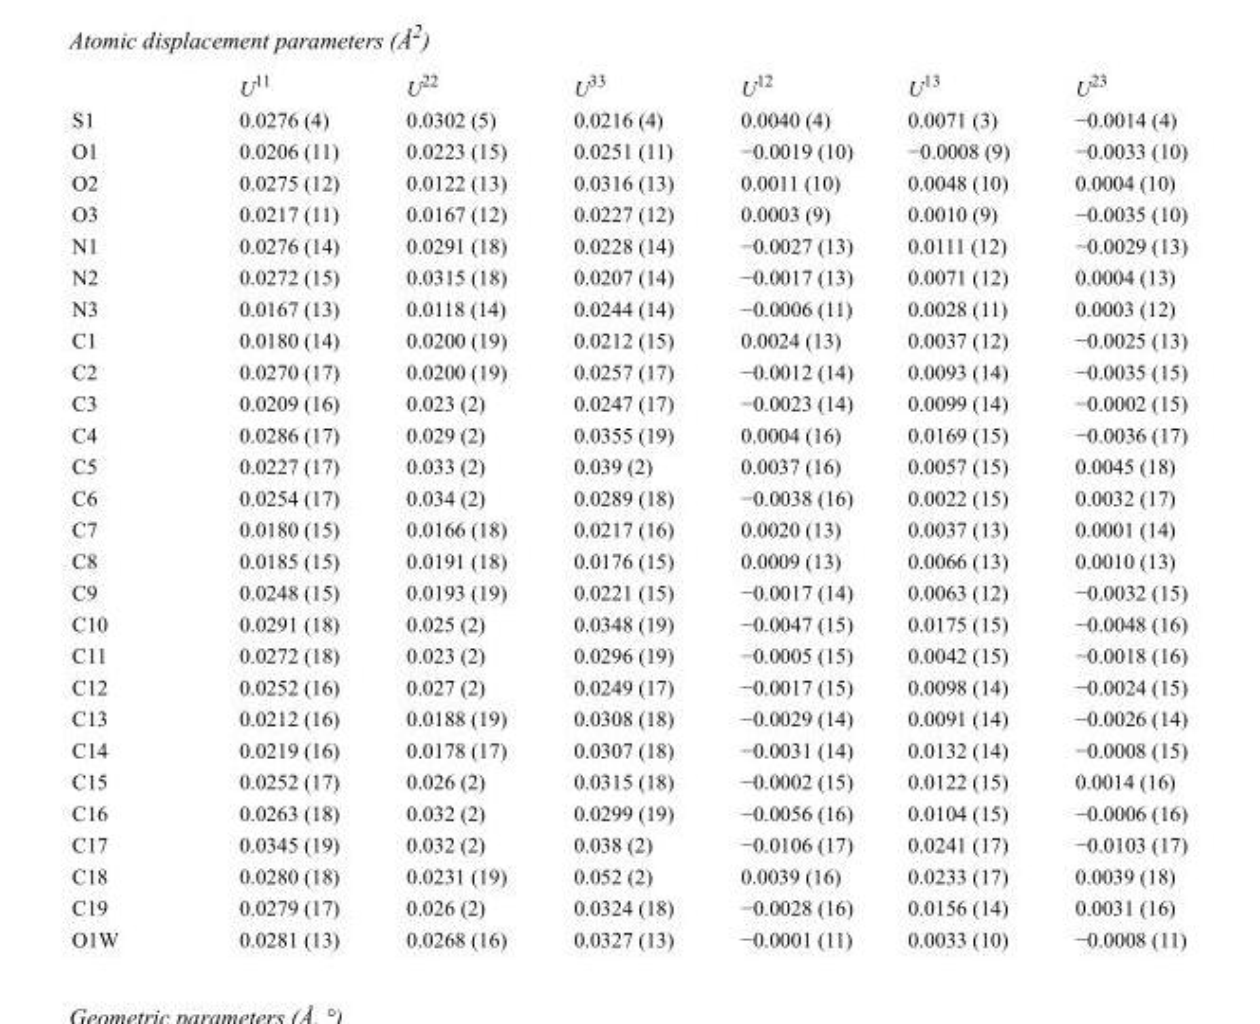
<table><thead><tr><td></td><td>U<sup>11</sup></td><td>U<sup>22</sup></td><td>U<sup>33</sup></td><td>U<sup>12</sup></td><td>U<sup>13</sup></td><td>U<sup>23</sup></td></tr></thead><tbody><tr><td>S1</td><td>0.0276 (4)</td><td>0.0302 (5)</td><td>0.0216 (4)</td><td>0.0040 (4)</td><td>0.0071 (3)</td><td>−0.0014 (4)</td></tr><tr><td>O1</td><td>0.0206 (11)</td><td>0.0223 (15)</td><td>0.0251 (11)</td><td>−0.0019 (10)</td><td>−0.0008 (9)</td><td>−0.0033 (10)</td></tr><tr><td>O2</td><td>0.0275 (12)</td><td>0.0122 (13)</td><td>0.0316 (13)</td><td>0.0011 (10)</td><td>0.0048 (10)</td><td>0.0004 (10)</td></tr><tr><td>O3</td><td>0.0217 (11)</td><td>0.0167 (12)</td><td>0.0227 (12)</td><td>0.0003 (9)</td><td>0.0010 (9)</td><td>−0.0035 (10)</td></tr><tr><td>N1</td><td>0.0276 (14)</td><td>0.0291 (18)</td><td>0.0228 (14)</td><td>−0.0027 (13)</td><td>0.0111 (12)</td><td>−0.0029 (13)</td></tr><tr><td>N2</td><td>0.0272 (15)</td><td>0.0315 (18)</td><td>0.0207 (14)</td><td>−0.0017 (13)</td><td>0.0071 (12)</td><td>0.0004 (13)</td></tr><tr><td>N3</td><td>0.0167 (13)</td><td>0.0118 (14)</td><td>0.0244 (14)</td><td>−0.0006 (11)</td><td>0.0028 (11)</td><td>0.0003 (12)</td></tr><tr><td>C1</td><td>0.0180 (14)</td><td>0.0200 (19)</td><td>0.0212 (15)</td><td>0.0024 (13)</td><td>0.0037 (12)</td><td>−0.0025 (13)</td></tr><tr><td>C2</td><td>0.0270 (17)</td><td>0.0200 (19)</td><td>0.0257 (17)</td><td>−0.0012 (14)</td><td>0.0093 (14)</td><td>−0.0035 (15)</td></tr><tr><td>C3</td><td>0.0209 (16)</td><td>0.023 (2)</td><td>0.0247 (17)</td><td>−0.0023 (14)</td><td>0.0099 (14)</td><td>−0.0002 (15)</td></tr><tr><td>C4</td><td>0.0286 (17)</td><td>0.029 (2)</td><td>0.0355 (19)</td><td>0.0004 (16)</td><td>0.0169 (15)</td><td>−0.0036 (17)</td></tr><tr><td>C5</td><td>0.0227 (17)</td><td>0.033 (2)</td><td>0.039 (2)</td><td>0.0037 (16)</td><td>0.0057 (15)</td><td>0.0045 (18)</td></tr><tr><td>C6</td><td>0.0254 (17)</td><td>0.034 (2)</td><td>0.0289 (18)</td><td>−0.0038 (16)</td><td>0.0022 (15)</td><td>0.0032 (17)</td></tr><tr><td>C7</td><td>0.0180 (15)</td><td>0.0166 (18)</td><td>0.0217 (16)</td><td>0.0020 (13)</td><td>0.0037 (13)</td><td>0.0001 (14)</td></tr><tr><td>C8</td><td>0.0185 (15)</td><td>0.0191 (18)</td><td>0.0176 (15)</td><td>0.0009 (13)</td><td>0.0066 (13)</td><td>0.0010 (13)</td></tr><tr><td>C9</td><td>0.0248 (15)</td><td>0.0193 (19)</td><td>0.0221 (15)</td><td>−0.0017 (14)</td><td>0.0063 (12)</td><td>−0.0032 (15)</td></tr><tr><td>C10</td><td>0.0291 (18)</td><td>0.025 (2)</td><td>0.0348 (19)</td><td>−0.0047 (15)</td><td>0.0175 (15)</td><td>−0.0048 (16)</td></tr><tr><td>C11</td><td>0.0272 (18)</td><td>0.023 (2)</td><td>0.0296 (19)</td><td>−0.0005 (15)</td><td>0.0042 (15)</td><td>−0.0018 (16)</td></tr><tr><td>C12</td><td>0.0252 (16)</td><td>0.027 (2)</td><td>0.0249 (17)</td><td>−0.0017 (15)</td><td>0.0098 (14)</td><td>−0.0024 (15)</td></tr><tr><td>C13</td><td>0.0212 (16)</td><td>0.0188 (19)</td><td>0.0308 (18)</td><td>−0.0029 (14)</td><td>0.0091 (14)</td><td>−0.0026 (14)</td></tr><tr><td>C14</td><td>0.0219 (16)</td><td>0.0178 (17)</td><td>0.0307 (18)</td><td>−0.0031 (14)</td><td>0.0132 (14)</td><td>−0.0008 (15)</td></tr><tr><td>C15</td><td>0.0252 (17)</td><td>0.026 (2)</td><td>0.0315 (18)</td><td>−0.0002 (15)</td><td>0.0122 (15)</td><td>0.0014 (16)</td></tr><tr><td>C16</td><td>0.0263 (18)</td><td>0.032 (2)</td><td>0.0299 (19)</td><td>−0.0056 (16)</td><td>0.0104 (15)</td><td>−0.0006 (16)</td></tr><tr><td>C17</td><td>0.0345 (19)</td><td>0.032 (2)</td><td>0.038 (2)</td><td>−0.0106 (17)</td><td>0.0241 (17)</td><td>−0.0103 (17)</td></tr><tr><td>C18</td><td>0.0280 (18)</td><td>0.0231 (19)</td><td>0.052 (2)</td><td>0.0039 (16)</td><td>0.0233 (17)</td><td>0.0039 (18)</td></tr><tr><td>C19</td><td>0.0279 (17)</td><td>0.026 (2)</td><td>0.0324 (18)</td><td>−0.0028 (16)</td><td>0.0156 (14)</td><td>0.0031 (16)</td></tr><tr><td>O1W</td><td>0.0281 (13)</td><td>0.0268 (16)</td><td>0.0327 (13)</td><td>−0.0001 (11)</td><td>0.0033 (10)</td><td>−0.0008 (11)</td></tr></tbody></table>